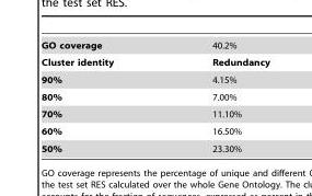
<table><tbody><tr><td>GO coverage</td><td>40.2%</td></tr><tr><td>Cluster identity</td><td>Redundancy</td></tr><tr><td>90%</td><td>4.15%</td></tr><tr><td>80%</td><td>7.00%</td></tr><tr><td>70%</td><td>11.10%</td></tr><tr><td>60%</td><td>16.50%</td></tr><tr><td>50%</td><td>23.30%</td></tr></tbody></table>